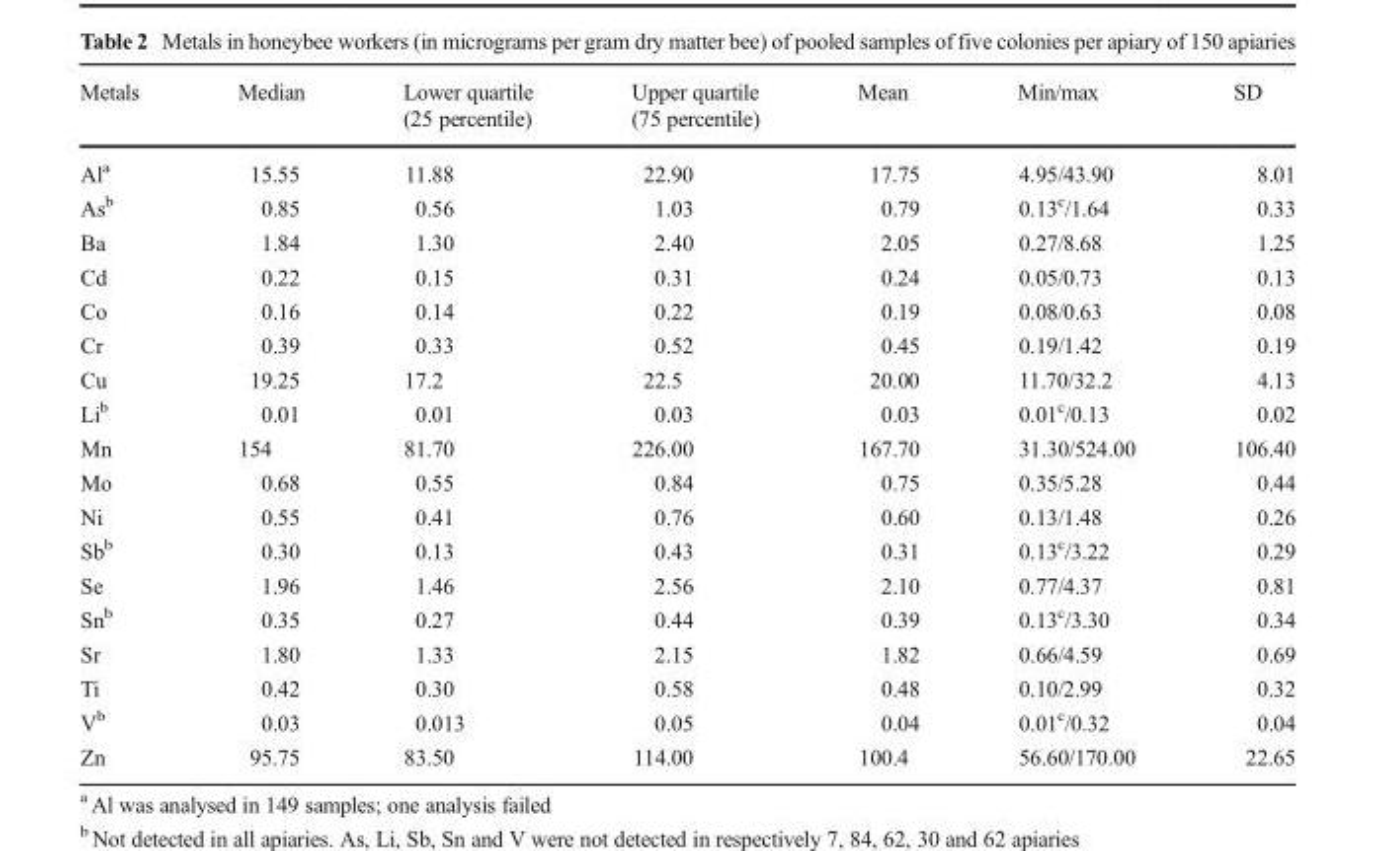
<table><thead><tr><td>Metals</td><td>Median</td><td>Lower quartile (25 percentile)</td><td>Upper quartile (75 percentile)</td><td>Mean</td><td>Min/max</td><td>SD</td></tr></thead><tbody><tr><td>Al<sup>a</sup></td><td>15.55</td><td>11.88</td><td>22.90</td><td>17.75</td><td>4.95/43.90</td><td>8.01</td></tr><tr><td>As<sup>b</sup></td><td>0.85</td><td>0.56</td><td>1.03</td><td>0.79</td><td>0.13<sup>c</sup>/1.64</td><td>0.33</td></tr><tr><td>Ba</td><td>1.84</td><td>1.30</td><td>2.40</td><td>2.05</td><td>0.27/8.68</td><td>1.25</td></tr><tr><td>Cd</td><td>0.22</td><td>0.15</td><td>0.31</td><td>0.24</td><td>0.05/0.73</td><td>0.13</td></tr><tr><td>Co</td><td>0.16</td><td>0.14</td><td>0.22</td><td>0.19</td><td>0.08/0.63</td><td>0.08</td></tr><tr><td>Cr</td><td>0.39</td><td>0.33</td><td>0.52</td><td>0.45</td><td>0.19/1.42</td><td>0.19</td></tr><tr><td>Cu</td><td>19.25</td><td>17.2</td><td>22.5</td><td>20.00</td><td>11.70/32.2</td><td>4.13</td></tr><tr><td>Li<sup>b</sup></td><td>0.01</td><td>0.01</td><td>0.03</td><td>0.03</td><td>0.01<sup>c</sup>/0.13</td><td>0.02</td></tr><tr><td>Mn</td><td>154</td><td>81.70</td><td>226.00</td><td>167.70</td><td>31.30/524.00</td><td>106.40</td></tr><tr><td>Mo</td><td>0.68</td><td>0.55</td><td>0.84</td><td>0.75</td><td>0.35/5.28</td><td>0.44</td></tr><tr><td>Ni</td><td>0.55</td><td>0.41</td><td>0.76</td><td>0.60</td><td>0.13/1.48</td><td>0.26</td></tr><tr><td>Sb<sup>b</sup></td><td>0.30</td><td>0.13</td><td>0.43</td><td>0.31</td><td>0.13<sup>c</sup>/3.22</td><td>0.29</td></tr><tr><td>Se</td><td>1.96</td><td>1.46</td><td>2.56</td><td>2.10</td><td>0.77/4.37</td><td>0.81</td></tr><tr><td>Sn<sup>b</sup></td><td>0.35</td><td>0.27</td><td>0.44</td><td>0.39</td><td>0.13<sup>c</sup>/3.30</td><td>0.34</td></tr><tr><td>Sr</td><td>1.80</td><td>1.33</td><td>2.15</td><td>1.82</td><td>0.66/4.59</td><td>0.69</td></tr><tr><td>Ti</td><td>0.42</td><td>0.30</td><td>0.58</td><td>0.48</td><td>0.10/2.99</td><td>0.32</td></tr><tr><td>V<sup>b</sup></td><td>0.03</td><td>0.013</td><td>0.05</td><td>0.04</td><td>0.01<sup>c</sup>/0.32</td><td>0.04</td></tr><tr><td>Zn</td><td>95.75</td><td>83.50</td><td>114.00</td><td>100.4</td><td>56.60/170.00</td><td>22.65</td></tr></tbody></table>